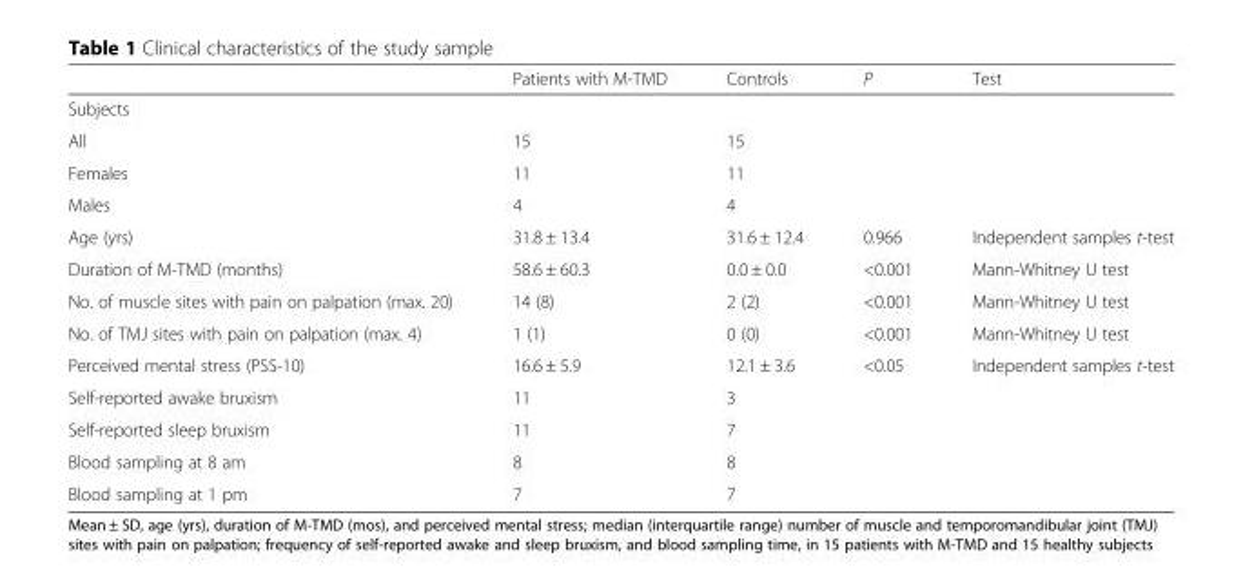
<table><thead><tr><td></td><td>Patients with M-TMD</td><td>Controls</td><td>P</td><td>Test</td></tr></thead><tbody><tr><td colspan="3">Subjects</td><td rowspan="4"></td><td rowspan="4"></td></tr><tr><td>All</td><td>15</td><td>15</td></tr><tr><td>Females</td><td>11</td><td>11</td></tr><tr><td>Males</td><td>4</td><td>4</td></tr><tr><td>Age (yrs)</td><td>31.8 ± 13.4</td><td>31.6 ± 12.4</td><td>0.966</td><td>Independent samples t-test</td></tr><tr><td>Duration of M-TMD (months)</td><td>58.6 ± 60.3</td><td>0.0 ± 0.0</td><td>&lt;0.001</td><td>Mann-Whitney U test</td></tr><tr><td>No. of muscle sites with pain on palpation (max. 20)</td><td>14 (8)</td><td>2 (2)</td><td>&lt;0.001</td><td>Mann-Whitney U test</td></tr><tr><td>No. of TMJ sites with pain on palpation (max. 4)</td><td>1 (1)</td><td>0 (0)</td><td>&lt;0.001</td><td>Mann-Whitney U test</td></tr><tr><td>Perceived mental stress (PSS-10)</td><td>16.6 ± 5.9</td><td>12.1 ± 3.6</td><td>&lt;0.05</td><td>Independent samples t-test</td></tr><tr><td>Self-reported awake bruxism</td><td>11</td><td>3</td><td></td><td></td></tr><tr><td>Self-reported sleep bruxism</td><td>11</td><td>7</td><td></td><td></td></tr><tr><td>Blood sampling at 8 am</td><td>8</td><td>8</td><td></td><td></td></tr><tr><td>Blood sampling at 1 pm</td><td>7</td><td>7</td><td></td><td></td></tr></tbody></table>